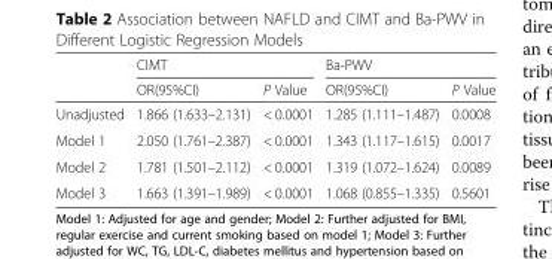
<table><thead><tr><td rowspan="2"></td><td colspan="2">CIMT</td><td colspan="2">Ba-PWV</td></tr><tr><td>OR(95%CI)</td><td>P Value</td><td>OR(95%CI)</td><td>P Value</td></tr></thead><tbody><tr><td>Unadjusted</td><td>1.866 (1.633–2.131)</td><td>&lt; 0.0001</td><td>1.285 (1.111–1.487)</td><td>0.0008</td></tr><tr><td>Model 1</td><td>2.050 (1.761–2.387)</td><td>&lt; 0.0001</td><td>1.343 (1.117–1.615)</td><td>0.0017</td></tr><tr><td>Model 2</td><td>1.781 (1.501–2.112)</td><td>&lt; 0.0001</td><td>1.319 (1.072–1.624)</td><td>0.0089</td></tr><tr><td>Model 3</td><td>1.663 (1.391–1.989)</td><td>&lt; 0.0001</td><td>1.068 (0.855–1.335)</td><td>0.5601</td></tr></tbody></table>